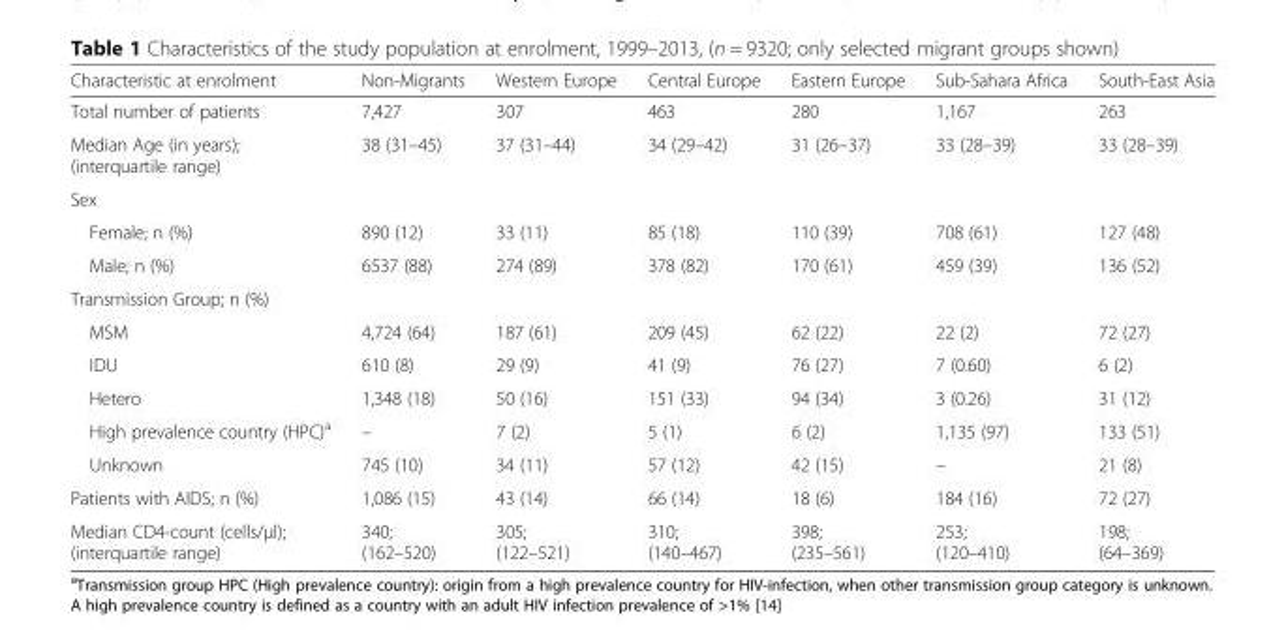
<table><thead><tr><td>Characteristic at enrolment</td><td>Non-Migrants</td><td>Western Europe</td><td>Central Europe</td><td>Eastern Europe</td><td>Sub-Sahara Africa</td><td>South-East Asia</td></tr></thead><tbody><tr><td>Total number of patients</td><td>7,427</td><td>307</td><td>463</td><td>280</td><td>1,167</td><td>263</td></tr><tr><td>Median Age (in years); (interquartile range)</td><td>38 (31–45)</td><td>37 (31–44)</td><td>34 (29–42)</td><td>31 (26–37)</td><td>33 (28–39)</td><td>33 (28–39)</td></tr><tr><td colspan="7">Sex</td></tr><tr><td>Female; n (%)</td><td>890 (12)</td><td>33 (11)</td><td>85 (18)</td><td>110 (39)</td><td>708 (61)</td><td>127 (48)</td></tr><tr><td>Male; n (%)</td><td>6537 (88)</td><td>274 (89)</td><td>378 (82)</td><td>170 (61)</td><td>459 (39)</td><td>136 (52)</td></tr><tr><td colspan="7">Transmission Group; n (%)</td></tr><tr><td>MSM</td><td>4,724 (64)</td><td>187 (61)</td><td>209 (45)</td><td>62 (22)</td><td>22 (2)</td><td>72 (27)</td></tr><tr><td>IDU</td><td>610 (8)</td><td>29 (9)</td><td>41 (9)</td><td>76 (27)</td><td>7 (0.60)</td><td>6 (2)</td></tr><tr><td>Hetero</td><td>1,348 (18)</td><td>50 (16)</td><td>151 (33)</td><td>94 (34)</td><td>3 (0.26)</td><td>31 (12)</td></tr><tr><td>High prevalence country (HPC)<sup>a</sup></td><td>–</td><td>7 (2)</td><td>5 (1)</td><td>6 (2)</td><td>1,135 (97)</td><td>133 (51)</td></tr><tr><td>Unknown</td><td>745 (10)</td><td>34 (11)</td><td>57 (12)</td><td>42 (15)</td><td>–</td><td>21 (8)</td></tr><tr><td>Patients with AIDS; n (%)</td><td>1,086 (15)</td><td>43 (14)</td><td>66 (14)</td><td>18 (6)</td><td>184 (16)</td><td>72 (27)</td></tr><tr><td>Median CD4-count (cells/μl); (interquartile range)</td><td>340; (162–520)</td><td>305; (122–521)</td><td>310; (140–467)</td><td>398; (235–561)</td><td>253; (120–410)</td><td>198; (64–369)</td></tr></tbody></table>